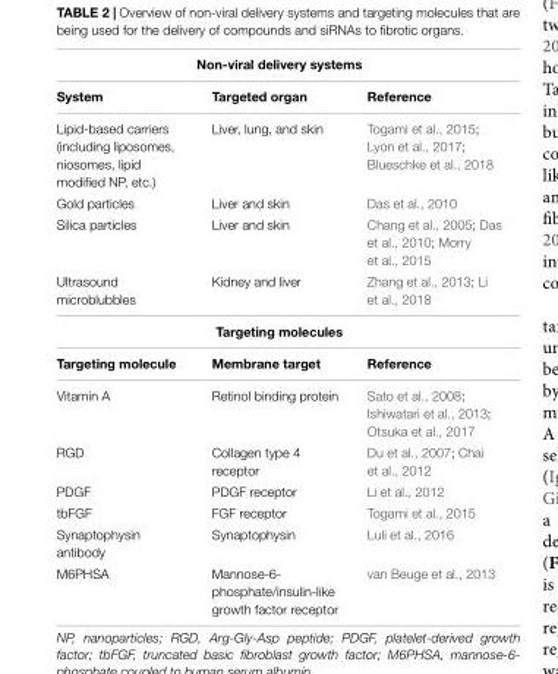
<table><thead><tr><td colspan="3">Non-viral delivery systems</td></tr><tr><td>System</td><td>Targeted organ</td><td>Reference</td></tr></thead><tbody><tr><td>Lipid-based carriers (including liposomes, niosomes, lipid modified NP, etc.)</td><td>Liver, lung, and skin</td><td>Togami et al., 2015; Lyon et al., 2017; Blueschke et al., 2018</td></tr><tr><td>Gold particles</td><td>Liver and skin</td><td>Das et al., 2010</td></tr><tr><td>Silica particles</td><td>Liver and skin</td><td>Chang et al., 2005; Das et al., 2010; Morry et al., 2015</td></tr><tr><td>Ultrasound microblubbles</td><td>Kidney and liver</td><td>Zhang et al., 2013; Li et al., 2018</td></tr><tr><td colspan="3">Targeting molecules</td></tr><tr><td>Targeting molecule</td><td>Membrane target</td><td>Reference</td></tr><tr><td>Vitamin A</td><td>Retinol binding protein</td><td>Sato et al., 2008; Ishiwatari et al., 2013; Otsuka et al., 2017</td></tr><tr><td>RGD</td><td>Collagen type 4 receptor</td><td>Du et al., 2007; Chai et al., 2012</td></tr><tr><td>PDGF</td><td>PDGF receptor</td><td>Li et al., 2012</td></tr><tr><td>tbFGF</td><td>FGF receptor</td><td>Togami et al., 2015</td></tr><tr><td>Synaptophysin antibody</td><td>Synaptophysin</td><td>Luli et al., 2016</td></tr><tr><td>M6PHSA</td><td>Mannose-6- phosphate/insulin-like growth factor receptor</td><td>van Beuge et al., 2013</td></tr></tbody></table>